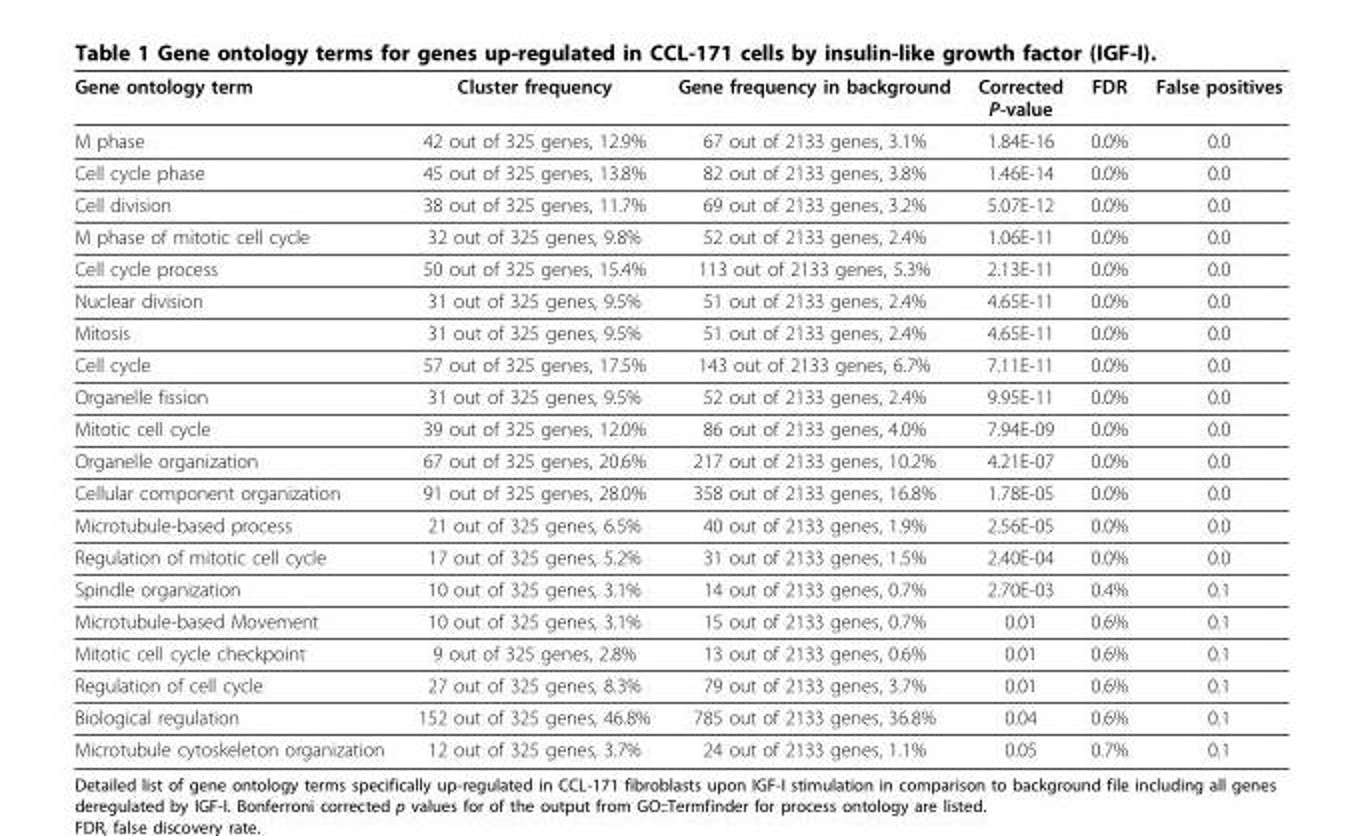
<table><thead><tr><td>Gene ontology term</td><td>Cluster frequency</td><td>Gene frequency in background</td><td>Corrected P-value</td><td>FDR</td><td>False positives</td></tr></thead><tbody><tr><td>M phase</td><td>42 out of 325 genes, 12.9%</td><td>67 out of 2133 genes, 3.1%</td><td>1.84E-16</td><td>0.0%</td><td>0.0</td></tr><tr><td>Cell cycle phase</td><td>45 out of 325 genes, 13.8%</td><td>82 out of 2133 genes, 3.8%</td><td>1.46E-14</td><td>0.0%</td><td>0.0</td></tr><tr><td>Cell division</td><td>38 out of 325 genes, 11.7%</td><td>69 out of 2133 genes, 3.2%</td><td>5.07E-12</td><td>0.0%</td><td>0.0</td></tr><tr><td>M phase of mitotic cell cycle</td><td>32 out of 325 genes, 9.8%</td><td>52 out of 2133 genes, 2.4%</td><td>1.06E-11</td><td>0.0%</td><td>0.0</td></tr><tr><td>Cell cycle process</td><td>50 out of 325 genes, 15.4%</td><td>113 out of 2133 genes, 5.3%</td><td>2.13E-11</td><td>0.0%</td><td>0.0</td></tr><tr><td>Nuclear division</td><td>31 out of 325 genes, 9.5%</td><td>51 out of 2133 genes, 2.4%</td><td>4.65E-11</td><td>0.0%</td><td>0.0</td></tr><tr><td>Mitosis</td><td>31 out of 325 genes, 9.5%</td><td>51 out of 2133 genes, 2.4%</td><td>4.65E-11</td><td>0.0%</td><td>0.0</td></tr><tr><td>Cell cycle</td><td>57 out of 325 genes, 17.5%</td><td>143 out of 2133 genes, 6.7%</td><td>7.11E-11</td><td>0.0%</td><td>0.0</td></tr><tr><td>Organelle fission</td><td>31 out of 325 genes, 9.5%</td><td>52 out of 2133 genes, 2.4%</td><td>9.95E-11</td><td>0.0%</td><td>0.0</td></tr><tr><td>Mitotic cell cycle</td><td>39 out of 325 genes, 12.0%</td><td>86 out of 2133 genes, 4.0%</td><td>7.94E-09</td><td>0.0%</td><td>0.0</td></tr><tr><td>Organelle organization</td><td>67 out of 325 genes, 20.6%</td><td>217 out of 2133 genes, 10.2%</td><td>4.21E-07</td><td>0.0%</td><td>0.0</td></tr><tr><td>Cellular component organization</td><td>91 out of 325 genes, 28.0%</td><td>358 out of 2133 genes, 16.8%</td><td>1.78E-05</td><td>0.0%</td><td>0.0</td></tr><tr><td>Microtubule-based process</td><td>21 out of 325 genes, 6.5%</td><td>40 out of 2133 genes, 1.9%</td><td>2.56E-05</td><td>0.0%</td><td>0.0</td></tr><tr><td>Regulation of mitotic cell cycle</td><td>17 out of 325 genes, 5.2%</td><td>31 out of 2133 genes, 1.5%</td><td>2.40E-04</td><td>0.0%</td><td>0.0</td></tr><tr><td>Spindle organization</td><td>10 out of 325 genes, 3.1%</td><td>14 out of 2133 genes, 0.7%</td><td>2.70E-03</td><td>0.4%</td><td>0.1</td></tr><tr><td>Microtubule-based Movement</td><td>10 out of 325 genes, 3.1%</td><td>15 out of 2133 genes, 0.7%</td><td>0.01</td><td>0.6%</td><td>0.1</td></tr><tr><td>Mitotic cell cycle checkpoint</td><td>9 out of 325 genes, 2.8%</td><td>13 out of 2133 genes, 0.6%</td><td>0.01</td><td>0.6%</td><td>0.1</td></tr><tr><td>Regulation of cell cycle</td><td>27 out of 325 genes, 8.3%</td><td>79 out of 2133 genes, 3.7%</td><td>0.01</td><td>0.6%</td><td>0.1</td></tr><tr><td>Biological regulation</td><td>152 out of 325 genes, 46.8%</td><td>785 out of 2133 genes, 36.8%</td><td>0.04</td><td>0.6%</td><td>0.1</td></tr><tr><td>Microtubule cytoskeleton organization</td><td>12 out of 325 genes, 3.7%</td><td>24 out of 2133 genes, 1.1%</td><td>0.05</td><td>0.7%</td><td>0.1</td></tr></tbody></table>